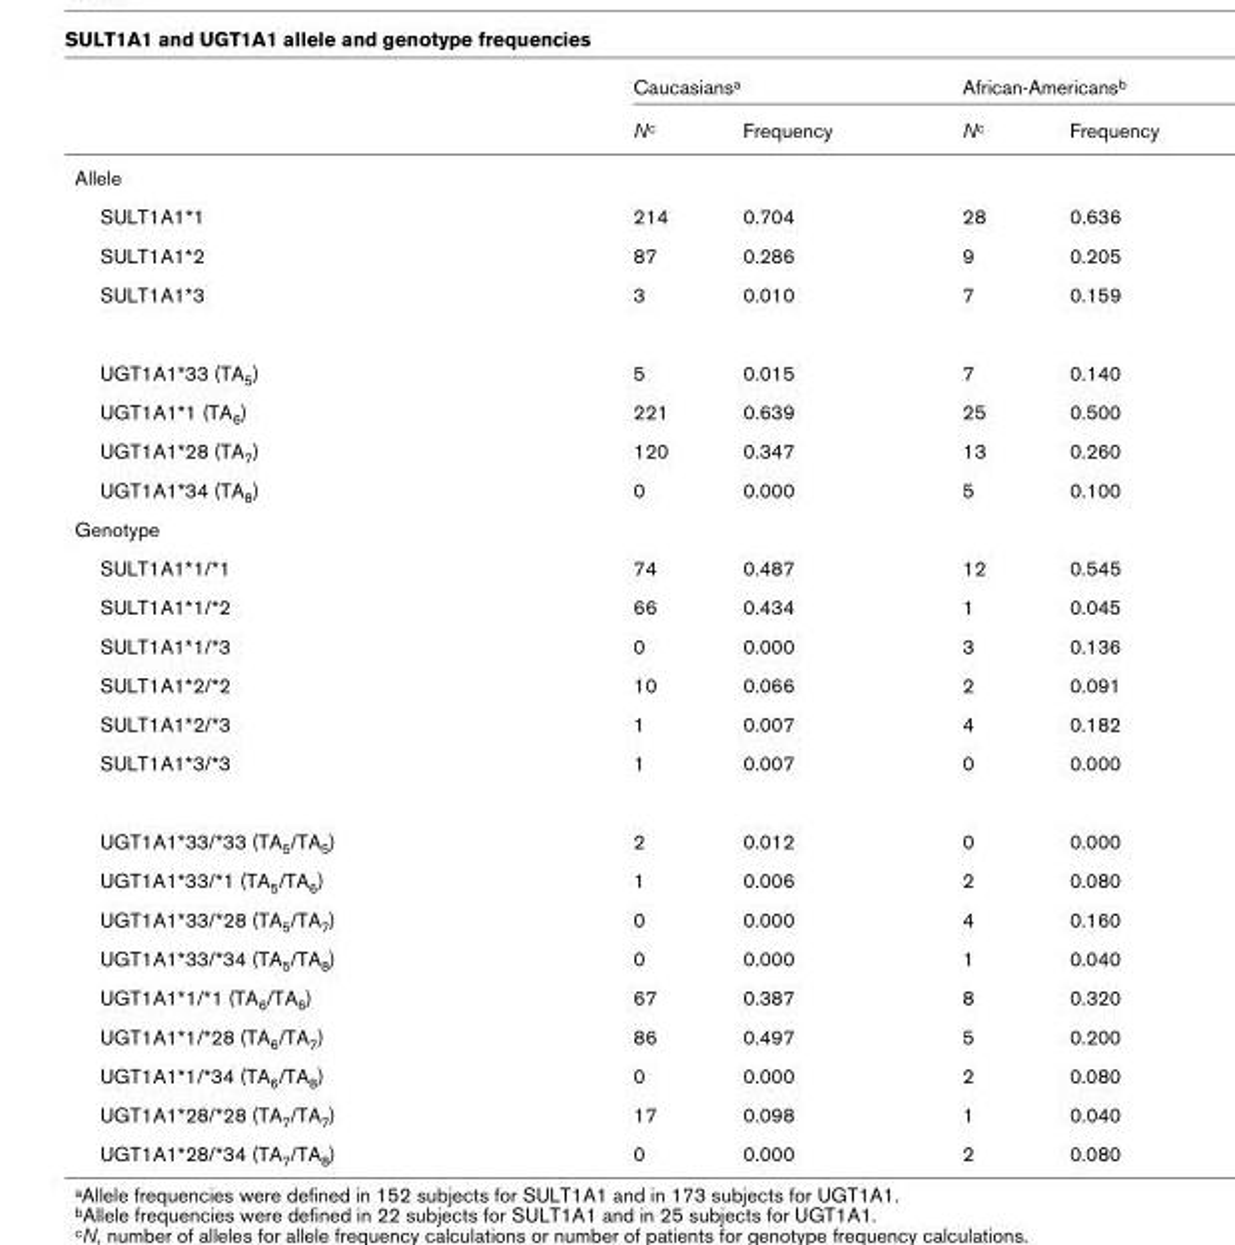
<table><thead><tr><td rowspan="2"></td><td colspan="2">Caucasiansa</td><td colspan="2">African-Americansb</td></tr><tr><td>Nc</td><td>Frequency</td><td>Nc</td><td>Frequency</td></tr></thead><tbody><tr><td colspan="5">Allele</td></tr><tr><td>SULT1A1*1</td><td>214</td><td>0.704</td><td>28</td><td>0.636</td></tr><tr><td>SULT1A1*2</td><td>87</td><td>0.286</td><td>9</td><td>0.205</td></tr><tr><td>SULT1A1*3</td><td>3</td><td>0.010</td><td>7</td><td>0.159</td></tr><tr><td>UGT1A1*33 (TA5)</td><td>5</td><td>0.015</td><td>7</td><td>0.140</td></tr><tr><td>UGT1A1*1 (TA6)</td><td>221</td><td>0.639</td><td>25</td><td>0.500</td></tr><tr><td>UGT1A1*28 (TA7)</td><td>120</td><td>0.347</td><td>13</td><td>0.260</td></tr><tr><td>UGT1A1*34 (TA8)</td><td>0</td><td>0.000</td><td>5</td><td>0.100</td></tr><tr><td colspan="5">Genotype</td></tr><tr><td>SULT1A1*1/*1</td><td>74</td><td>0.487</td><td>12</td><td>0.545</td></tr><tr><td>SULT1A1*1/*2</td><td>66</td><td>0.434</td><td>1</td><td>0.045</td></tr><tr><td>SULT1A1*1/*3</td><td>0</td><td>0.000</td><td>3</td><td>0.136</td></tr><tr><td>SULT1A1*2/*2</td><td>10</td><td>0.066</td><td>2</td><td>0.091</td></tr><tr><td>SULT1A1*2/*3</td><td>1</td><td>0.007</td><td>4</td><td>0.182</td></tr><tr><td>SULT1A1*3/*3</td><td>1</td><td>0.007</td><td>0</td><td>0.000</td></tr><tr><td>UGT1A1*33/*33 (TA5/TA5)</td><td>2</td><td>0.012</td><td>0</td><td>0.000</td></tr><tr><td>UGT1A1*33/*1 (TA5/TA6)</td><td>1</td><td>0.006</td><td>2</td><td>0.080</td></tr><tr><td>UGT1A1*33/*28 (TA5/TA7)</td><td>0</td><td>0.000</td><td>4</td><td>0.160</td></tr><tr><td>UGT1A1*33/*34 (TA5/TA8)</td><td>0</td><td>0.000</td><td>1</td><td>0.040</td></tr><tr><td>UGT1A1*1/*1 (TA6/TA6)</td><td>67</td><td>0.387</td><td>8</td><td>0.320</td></tr><tr><td>UGT1A1*1/*28 (TA6/TA7)</td><td>86</td><td>0.497</td><td>5</td><td>0.200</td></tr><tr><td>UGT1A1*1/*34 (TA6/TA8)</td><td>0</td><td>0.000</td><td>2</td><td>0.080</td></tr><tr><td>UGT1A1*28/*28 (TA7/TA7)</td><td>17</td><td>0.098</td><td>1</td><td>0.040</td></tr><tr><td>UGT1A1*28/*34 (TA7/TA8)</td><td>0</td><td>0.000</td><td>2</td><td>0.080</td></tr></tbody></table>